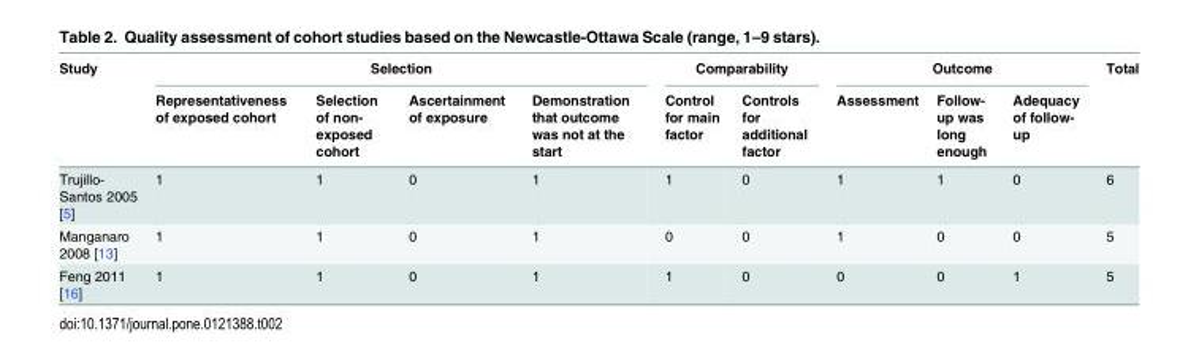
<table><thead><tr><td rowspan="2">Study</td><td colspan="4">Selection</td><td colspan="2">Comparability</td><td colspan="3">Outcome</td><td rowspan="2">Total</td></tr><tr><td>Representativeness of exposed cohort</td><td>Selection of non- exposed cohort</td><td>Ascertainment of exposure</td><td>Demonstration that outcome was not at the start</td><td>Control for main factor</td><td>Controls for additional factor</td><td>Assessment</td><td>Follow- up was long enough</td><td>Adequacy of follow- up</td></tr></thead><tbody><tr><td>Trujillo- Santos 2005 [5]</td><td>1</td><td>1</td><td>0</td><td>1</td><td>1</td><td>0</td><td>1</td><td>1</td><td>0</td><td>6</td></tr><tr><td>Manganaro 2008 [13]</td><td>1</td><td>1</td><td>0</td><td>1</td><td>0</td><td>0</td><td>1</td><td>0</td><td>0</td><td>5</td></tr><tr><td>Feng 2011 [16]</td><td>1</td><td>1</td><td>0</td><td>1</td><td>1</td><td>0</td><td>0</td><td>0</td><td>1</td><td>5</td></tr></tbody></table>